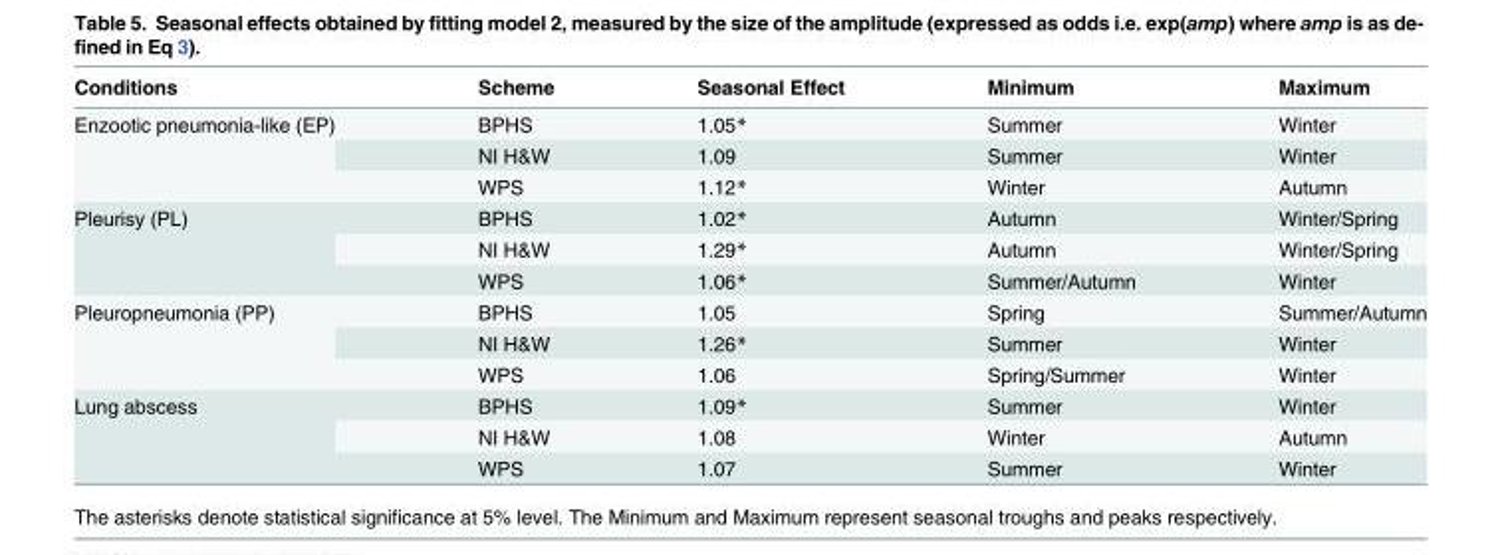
<table><thead><tr><td>Conditions</td><td>Scheme</td><td>Seasonal Effect</td><td>Minimum</td><td>Maximum</td></tr></thead><tbody><tr><td rowspan="3">Enzootic pneumonia-like (EP)</td><td>BPHS</td><td>1.05*</td><td>Summer</td><td>Winter</td></tr><tr><td>NI H&amp;W</td><td>1.09</td><td>Summer</td><td>Winter</td></tr><tr><td>WPS</td><td>1.12*</td><td>Winter</td><td>Autumn</td></tr><tr><td rowspan="3">Pleurisy (PL)</td><td>BPHS</td><td>1.02*</td><td>Autumn</td><td>Winter/Spring</td></tr><tr><td>NI H&amp;W</td><td>1.29*</td><td>Autumn</td><td>Winter/Spring</td></tr><tr><td>WPS</td><td>1.06*</td><td>Summer/Autumn</td><td>Winter</td></tr><tr><td rowspan="3">Pleuropneumonia (PP)</td><td>BPHS</td><td>1.05</td><td>Spring</td><td>Summer/Autumn</td></tr><tr><td>NI H&amp;W</td><td>1.26*</td><td>Summer</td><td>Winter</td></tr><tr><td>WPS</td><td>1.06</td><td>Spring/Summer</td><td>Winter</td></tr><tr><td rowspan="3">Lung abscess</td><td>BPHS</td><td>1.09*</td><td>Summer</td><td>Winter</td></tr><tr><td>NI H&amp;W</td><td>1.08</td><td>Winter</td><td>Autumn</td></tr><tr><td>WPS</td><td>1.07</td><td>Summer</td><td>Winter</td></tr></tbody></table>